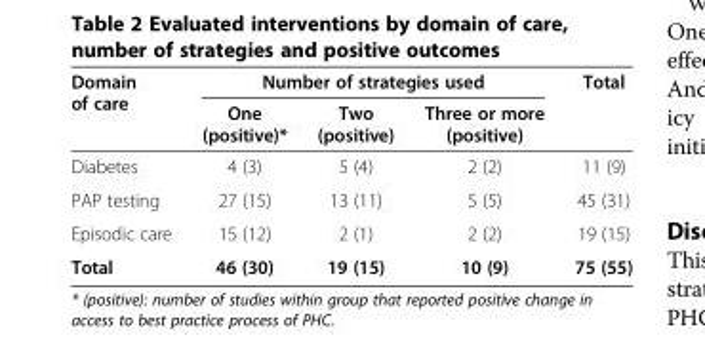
<table><thead><tr><td rowspan="2">Domain of care</td><td colspan="3">Number of strategies used</td><td rowspan="2">Total</td></tr><tr><td>One (positive)*</td><td>Two (positive)</td><td>Three or more (positive)</td></tr></thead><tbody><tr><td>Diabetes</td><td>4 (3)</td><td>5 (4)</td><td>2 (2)</td><td>11 (9)</td></tr><tr><td>PAP testing</td><td>27 (15)</td><td>13 (11)</td><td>5 (5)</td><td>45 (31)</td></tr><tr><td>Episodic care</td><td>15 (12)</td><td>2 (1)</td><td>2 (2)</td><td>19 (15)</td></tr><tr><td>Total</td><td>46 (30)</td><td>19 (15)</td><td>10 (9)</td><td>75 (55)</td></tr></tbody></table>